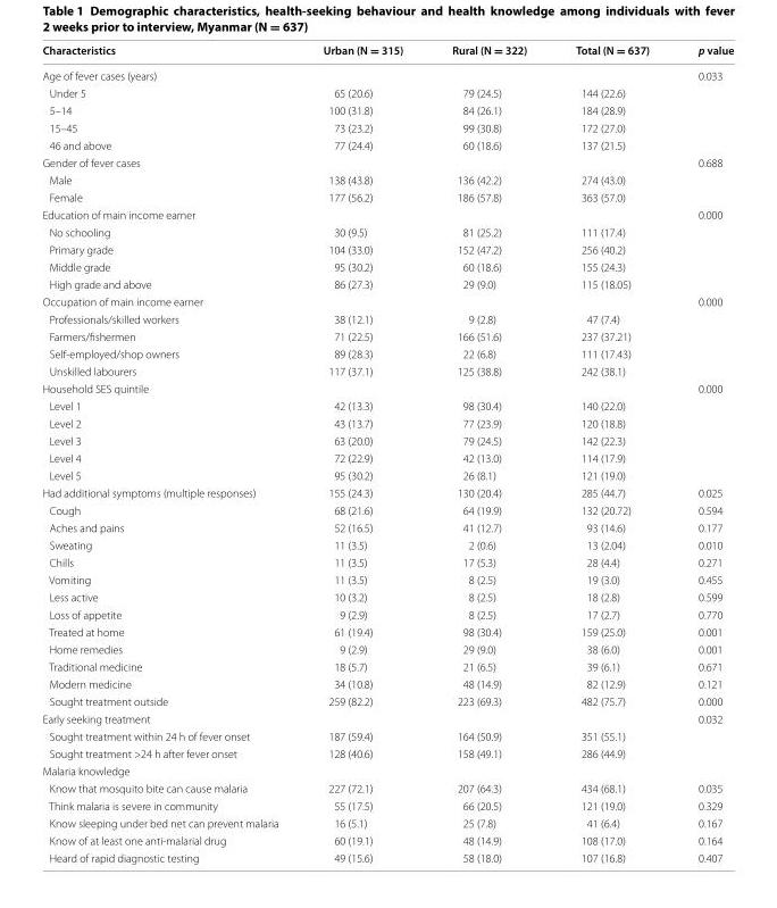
<table><thead><tr><td>Characteristics</td><td>Urban (N = 315)</td><td>Rural (N = 322)</td><td>Total (N = 637)</td><td>p value</td></tr></thead><tbody><tr><td colspan="4">Age of fever cases (years)</td><td>0.033</td></tr><tr><td>Under 5</td><td>65 (20.6)</td><td>79 (24.5)</td><td>144 (22.6)</td><td></td></tr><tr><td>5–14</td><td>100 (31.8)</td><td>84 (26.1)</td><td>184 (28.9)</td><td></td></tr><tr><td>15–45</td><td>73 (23.2)</td><td>99 (30.8)</td><td>172 (27.0)</td><td></td></tr><tr><td>46 and above</td><td>77 (24.4)</td><td>60 (18.6)</td><td>137 (21.5)</td><td></td></tr><tr><td colspan="4">Gender of fever cases</td><td>0.688</td></tr><tr><td>Male</td><td>138 (43.8)</td><td>136 (42.2)</td><td>274 (43.0)</td><td></td></tr><tr><td>Female</td><td>177 (56.2)</td><td>186 (57.8)</td><td>363 (57.0)</td><td></td></tr><tr><td colspan="4">Education of main income earner</td><td>0.000</td></tr><tr><td>No schooling</td><td>30 (9.5)</td><td>81 (25.2)</td><td>111 (17.4)</td><td></td></tr><tr><td>Primary grade</td><td>104 (33.0)</td><td>152 (47.2)</td><td>256 (40.2)</td><td></td></tr><tr><td>Middle grade</td><td>95 (30.2)</td><td>60 (18.6)</td><td>155 (24.3)</td><td></td></tr><tr><td>High grade and above</td><td>86 (27.3)</td><td>29 (9.0)</td><td>115 (18.05)</td><td></td></tr><tr><td colspan="4">Occupation of main income earner</td><td>0.000</td></tr><tr><td>Professionals/skilled workers</td><td>38 (12.1)</td><td>9 (2.8)</td><td>47 (7.4)</td><td></td></tr><tr><td>Farmers/fishermen</td><td>71 (22.5)</td><td>166 (51.6)</td><td>237 (37.21)</td><td></td></tr><tr><td>Self-employed/shop owners</td><td>89 (28.3)</td><td>22 (6.8)</td><td>111 (17.43)</td><td></td></tr><tr><td>Unskilled labourers</td><td>117 (37.1)</td><td>125 (38.8)</td><td>242 (38.1)</td><td></td></tr><tr><td colspan="4">Household SES quintile</td><td>0.000</td></tr><tr><td>Level 1</td><td>42 (13.3)</td><td>98 (30.4)</td><td>140 (22.0)</td><td></td></tr><tr><td>Level 2</td><td>43 (13.7)</td><td>77 (23.9)</td><td>120 (18.8)</td><td></td></tr><tr><td>Level 3</td><td>63 (20.0)</td><td>79 (24.5)</td><td>142 (22.3)</td><td></td></tr><tr><td>Level 4</td><td>72 (22.9)</td><td>42 (13.0)</td><td>114 (17.9)</td><td></td></tr><tr><td>Level 5</td><td>95 (30.2)</td><td>26 (8.1)</td><td>121 (19.0)</td><td></td></tr><tr><td>Had additional symptoms (multiple responses)</td><td>155 (24.3)</td><td>130 (20.4)</td><td>285 (44.7)</td><td>0.025</td></tr><tr><td>Cough</td><td>68 (21.6)</td><td>64 (19.9)</td><td>132 (20.72)</td><td>0.594</td></tr><tr><td>Aches and pains</td><td>52 (16.5)</td><td>41 (12.7)</td><td>93 (14.6)</td><td>0.177</td></tr><tr><td>Sweating</td><td>11 (3.5)</td><td>2 (0.6)</td><td>13 (2.04)</td><td>0.010</td></tr><tr><td>Chills</td><td>11 (3.5)</td><td>17 (5.3)</td><td>28 (4.4)</td><td>0.271</td></tr><tr><td>Vomiting</td><td>11 (3.5)</td><td>8 (2.5)</td><td>19 (3.0)</td><td>0.455</td></tr><tr><td>Less active</td><td>10 (3.2)</td><td>8 (2.5)</td><td>18 (2.8)</td><td>0.599</td></tr><tr><td>Loss of appetite</td><td>9 (2.9)</td><td>8 (2.5)</td><td>17 (2.7)</td><td>0.770</td></tr><tr><td>Treated at home</td><td>61 (19.4)</td><td>98 (30.4)</td><td>159 (25.0)</td><td>0.001</td></tr><tr><td>Home remedies</td><td>9 (2.9)</td><td>29 (9.0)</td><td>38 (6.0)</td><td>0.001</td></tr><tr><td>Traditional medicine</td><td>18 (5.7)</td><td>21 (6.5)</td><td>39 (6.1)</td><td>0.671</td></tr><tr><td>Modern medicine</td><td>34 (10.8)</td><td>48 (14.9)</td><td>82 (12.9)</td><td>0.121</td></tr><tr><td>Sought treatment outside</td><td>259 (82.2)</td><td>223 (69.3)</td><td>482 (75.7)</td><td>0.000</td></tr><tr><td colspan="4">Early seeking treatment</td><td>0.032</td></tr><tr><td>Sought treatment within 24 h of fever onset</td><td>187 (59.4)</td><td>164 (50.9)</td><td>351 (55.1)</td><td></td></tr><tr><td>Sought treatment &gt;24 h after fever onset</td><td>128 (40.6)</td><td>158 (49.1)</td><td>286 (44.9)</td><td></td></tr><tr><td colspan="5">Malaria knowledge</td></tr><tr><td>Know that mosquito bite can cause malaria</td><td>227 (72.1)</td><td>207 (64.3)</td><td>434 (68.1)</td><td>0.035</td></tr><tr><td>Think malaria is severe in community</td><td>55 (17.5)</td><td>66 (20.5)</td><td>121 (19.0)</td><td>0.329</td></tr><tr><td>Know sleeping under bed net can prevent malaria</td><td>16 (5.1)</td><td>25 (7.8)</td><td>41 (6.4)</td><td>0.167</td></tr><tr><td>Know of at least one anti-malarial drug</td><td>60 (19.1)</td><td>48 (14.9)</td><td>108 (17.0)</td><td>0.164</td></tr><tr><td>Heard of rapid diagnostic testing</td><td>49 (15.6)</td><td>58 (18.0)</td><td>107 (16.8)</td><td>0.407</td></tr></tbody></table>